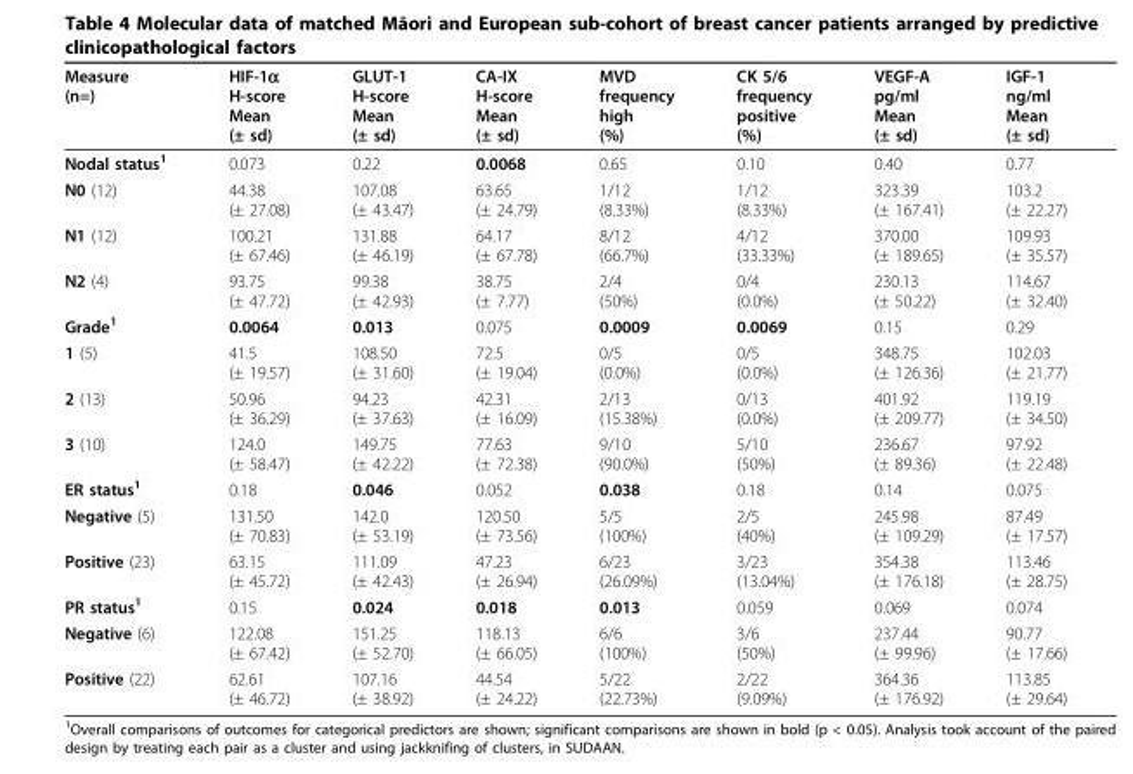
<table><thead><tr><td>Measure (n=)</td><td>HIF-1α H-score Mean (± sd)</td><td>GLUT-1 H-score Mean (± sd)</td><td>CA-IX H-score Mean (± sd)</td><td>MVD frequency high (%)</td><td>CK 5/6 frequency positive (%)</td><td>VEGF-A pg/ml Mean (± sd)</td><td>IGF-1 ng/ml Mean (± sd)</td></tr></thead><tbody><tr><td>Nodal status<sup>1</sup></td><td>0.073</td><td>0.22</td><td>0.0068</td><td>0.65</td><td>0.10</td><td>0.40</td><td>0.77</td></tr><tr><td>N0 (12)</td><td>44.38 (± 27.08)</td><td>107.08 (± 43.47)</td><td>63.65 (± 24.79)</td><td>1/12 (8.33%)</td><td>1/12 (8.33%)</td><td>323.39 (± 167.41)</td><td>103.2 (± 22.27)</td></tr><tr><td>N1 (12)</td><td>100.21 (± 67.46)</td><td>131.88 (± 46.19)</td><td>64.17 (± 67.78)</td><td>8/12 (66.7%)</td><td>4/12 (33.33%)</td><td>370.00 (± 189.65)</td><td>109.93 (± 35.57)</td></tr><tr><td>N2 (4)</td><td>93.75 (± 47.72)</td><td>99.38 (± 42.93)</td><td>38.75 (± 7.77)</td><td>2/4 (50%)</td><td>0/4 (0.0%)</td><td>230.13 (± 50.22)</td><td>114.67 (± 32.40)</td></tr><tr><td>Grade<sup>1</sup></td><td>0.0064</td><td>0.013</td><td>0.075</td><td>0.0009</td><td>0.0069</td><td>0.15</td><td>0.29</td></tr><tr><td>1 (5)</td><td>41.5 (± 19.57)</td><td>108.50 (± 31.60)</td><td>72.5 (± 19.04)</td><td>0/5 (0.0%)</td><td>0/5 (0.0%)</td><td>348.75 (± 126.36)</td><td>102.03 (± 21.77)</td></tr><tr><td>2 (13)</td><td>50.96 (± 36.29)</td><td>94.23 (± 37.63)</td><td>42.31 (± 16.09)</td><td>2/13 (15.38%)</td><td>0/13 (0.0%)</td><td>401.92 (± 209.77)</td><td>119.19 (± 34.50)</td></tr><tr><td>3 (10)</td><td>124.0 (± 58.47)</td><td>149.75 (± 42.22)</td><td>77.63 (± 72.38)</td><td>9/10 (90.0%)</td><td>5/10 (50%)</td><td>236.67 (± 89.36)</td><td>97.92 (± 22.48)</td></tr><tr><td>ER status<sup>1</sup></td><td>0.18</td><td>0.046</td><td>0.052</td><td>0.038</td><td>0.18</td><td>0.14</td><td>0.075</td></tr><tr><td>Negative (5)</td><td>131.50 (± 70.83)</td><td>142.0 (± 53.19)</td><td>120.50 (± 73.56)</td><td>5/5 (100%)</td><td>2/5 (40%)</td><td>245.98 (± 109.29)</td><td>87.49 (± 17.57)</td></tr><tr><td>Positive (23)</td><td>63.15 (± 45.72)</td><td>111.09 (± 42.43)</td><td>47.23 (± 26.94)</td><td>6/23 (26.09%)</td><td>3/23 (13.04%)</td><td>354.38 (± 176.18)</td><td>113.46 (± 28.75)</td></tr><tr><td>PR status<sup>1</sup></td><td>0.15</td><td>0.024</td><td>0.018</td><td>0.013</td><td>0.059</td><td>0.069</td><td>0.074</td></tr><tr><td>Negative (6)</td><td>122.08 (± 67.42)</td><td>151.25 (± 52.70)</td><td>118.13 (± 66.05)</td><td>6/6 (100%)</td><td>3/6 (50%)</td><td>237.44 (± 99.96)</td><td>90.77 (± 17.66)</td></tr><tr><td>Positive (22)</td><td>62.61 (± 46.72)</td><td>107.16 (± 38.92)</td><td>44.54 (± 24.22)</td><td>5/22 (22.73%)</td><td>2/22 (9.09%)</td><td>364.36 (± 176.92)</td><td>113.85 (± 29.64)</td></tr></tbody></table>